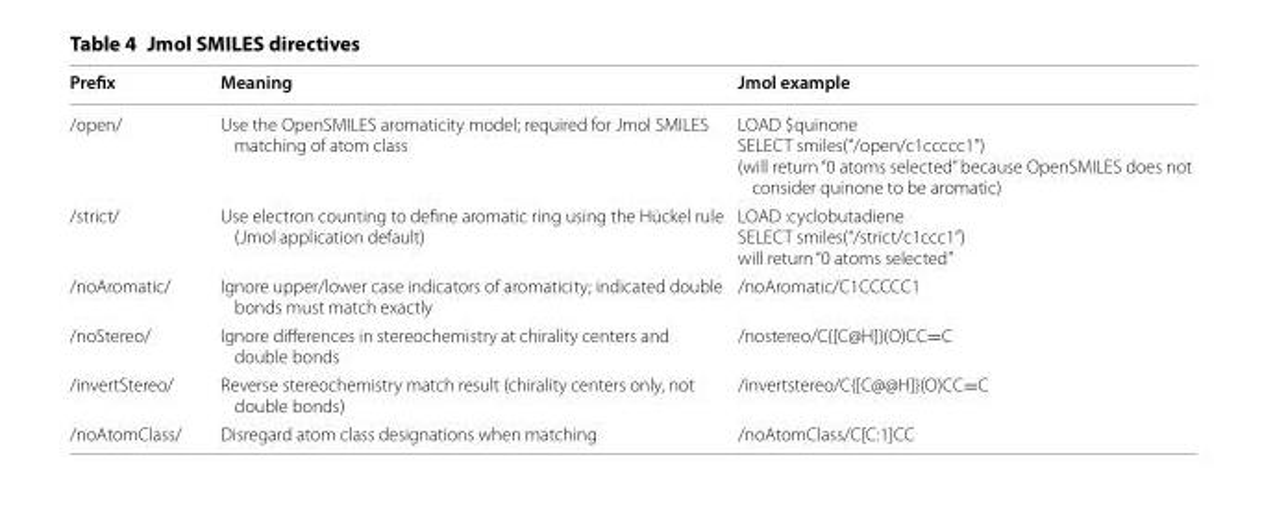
<table><thead><tr><td>Prefix</td><td>Meaning</td><td>Jmol example</td></tr></thead><tbody><tr><td>/open/</td><td>Use the OpenSMILES aromaticity model; required for Jmol SMILES matching of atom class</td><td>LOAD $quinone SELECT smiles(“/open/c1ccccc1”) (will return “0 atoms selected” because OpenSMILES does not consider quinone to be aromatic)</td></tr><tr><td>/strict/</td><td>Use electron counting to define aromatic ring using the Hückel rule (Jmol application default)</td><td>LOAD :cyclobutadiene SELECT smiles(“/strict/c1ccc1”) will return “0 atoms selected”</td></tr><tr><td>/noAromatic/</td><td>Ignore upper/lower case indicators of aromaticity; indicated double bonds must match exactly</td><td>/noAromatic/C1CCCCC1</td></tr><tr><td>/noStereo/</td><td>Ignore differences in stereochemistry at chirality centers and double bonds</td><td>/nostereo/C{[C@H]}(O)CC=C</td></tr><tr><td>/invertStereo/</td><td>Reverse stereochemistry match result (chirality centers only, not double bonds)</td><td>/invertstereo/C{[C@@H]}(O)CC=C</td></tr><tr><td>/noAtomClass/</td><td>Disregard atom class designations when matching</td><td>/noAtomClass/C[C:1]CC</td></tr></tbody></table>